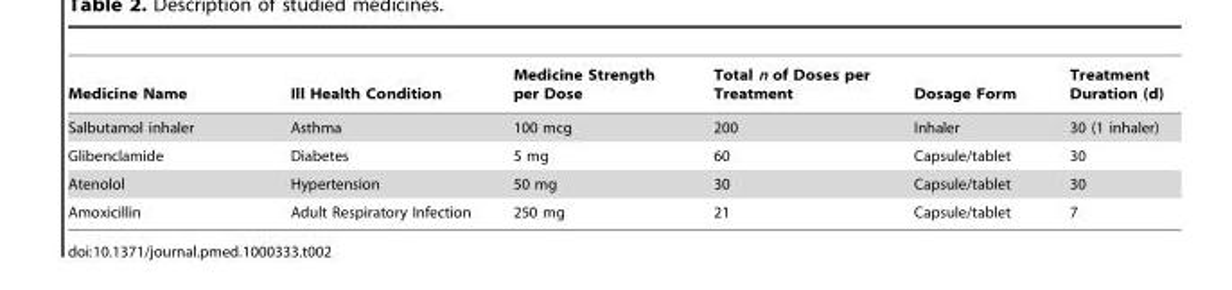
<table><thead><tr><td>Medicine Name</td><td>Ill Health Condition</td><td>Medicine Strength per Dose</td><td>Total n of Doses per Treatment</td><td>Dosage Form</td><td>Treatment Duration (d)</td></tr></thead><tbody><tr><td>Salbutamol inhaler</td><td>Asthma</td><td>100 mcg</td><td>200</td><td>Inhaler</td><td>30 (1 inhaler)</td></tr><tr><td>Glibenclamide</td><td>Diabetes</td><td>5 mg</td><td>60</td><td>Capsule/tablet</td><td>30</td></tr><tr><td>Atenolol</td><td>Hypertension</td><td>50 mg</td><td>30</td><td>Capsule/tablet</td><td>30</td></tr><tr><td>Amoxicillin</td><td>Adult Respiratory Infection</td><td>250 mg</td><td>21</td><td>Capsule/tablet</td><td>7</td></tr></tbody></table>